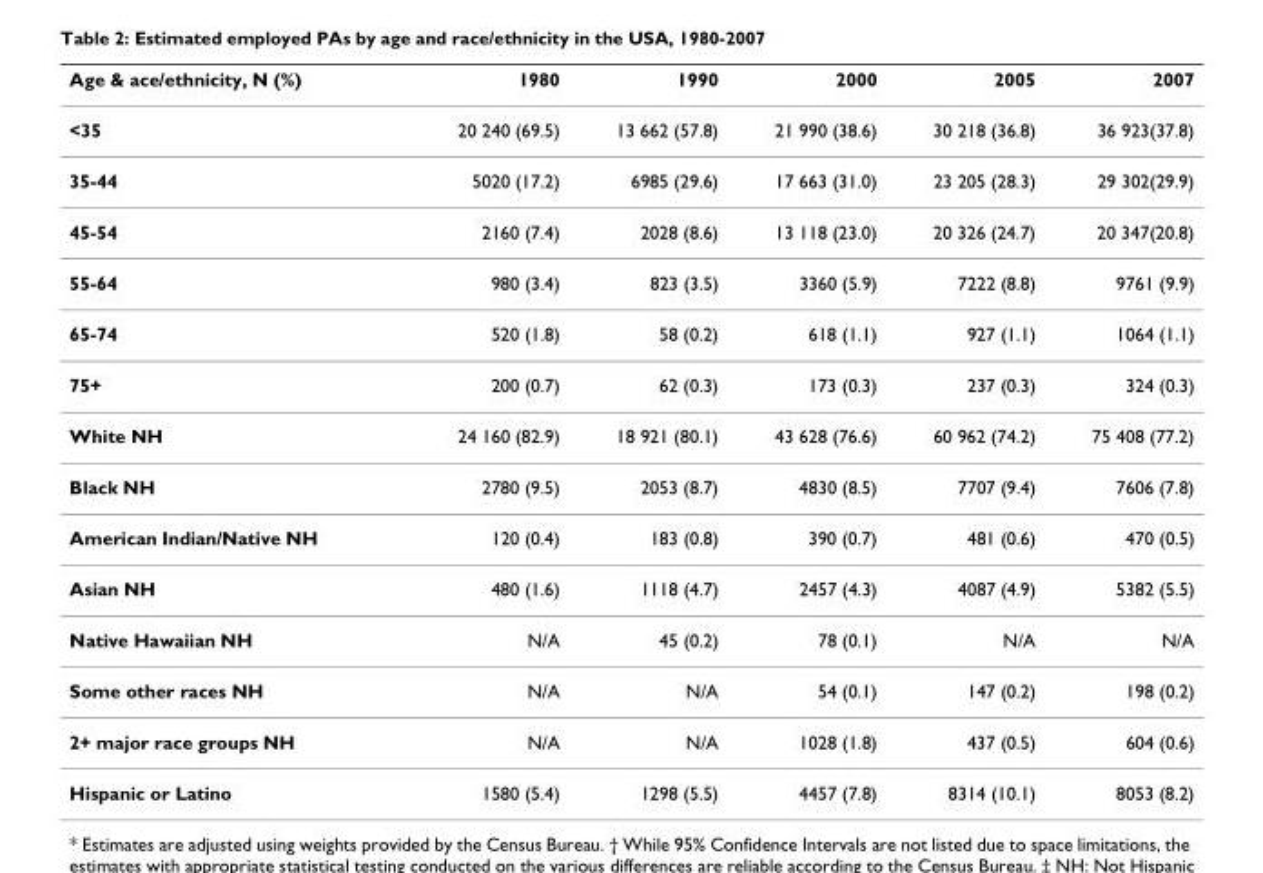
<table><thead><tr><td>Age &amp; ace/ethnicity, N (%)</td><td>1980</td><td>1990</td><td>2000</td><td>2005</td><td>2007</td></tr></thead><tbody><tr><td>&lt;35</td><td>20 240 (69.5)</td><td>13 662 (57.8)</td><td>21 990 (38.6)</td><td>30 218 (36.8)</td><td>36 923(37.8)</td></tr><tr><td>35-44</td><td>5020 (17.2)</td><td>6985 (29.6)</td><td>17 663 (31.0)</td><td>23 205 (28.3)</td><td>29 302(29.9)</td></tr><tr><td>45-54</td><td>2160 (7.4)</td><td>2028 (8.6)</td><td>13 118 (23.0)</td><td>20 326 (24.7)</td><td>20 347(20.8)</td></tr><tr><td>55-64</td><td>980 (3.4)</td><td>823 (3.5)</td><td>3360 (5.9)</td><td>7222 (8.8)</td><td>9761 (9.9)</td></tr><tr><td>65-74</td><td>520 (1.8)</td><td>58 (0.2)</td><td>618 (1.1)</td><td>927 (1.1)</td><td>1064 (1.1)</td></tr><tr><td>75+</td><td>200 (0.7)</td><td>62 (0.3)</td><td>173 (0.3)</td><td>237 (0.3)</td><td>324 (0.3)</td></tr><tr><td>White NH</td><td>24 160 (82.9)</td><td>18 921 (80.1)</td><td>43 628 (76.6)</td><td>60 962 (74.2)</td><td>75 408 (77.2)</td></tr><tr><td>Black NH</td><td>2780 (9.5)</td><td>2053 (8.7)</td><td>4830 (8.5)</td><td>7707 (9.4)</td><td>7606 (7.8)</td></tr><tr><td>American Indian/Native NH</td><td>120 (0.4)</td><td>183 (0.8)</td><td>390 (0.7)</td><td>481 (0.6)</td><td>470 (0.5)</td></tr><tr><td>Asian NH</td><td>480 (1.6)</td><td>1118 (4.7)</td><td>2457 (4.3)</td><td>4087 (4.9)</td><td>5382 (5.5)</td></tr><tr><td>Native Hawaiian NH</td><td>N/A</td><td>45 (0.2)</td><td>78 (0.1)</td><td>N/A</td><td>N/A</td></tr><tr><td>Some other races NH</td><td>N/A</td><td>N/A</td><td>54 (0.1)</td><td>147 (0.2)</td><td>198 (0.2)</td></tr><tr><td>2+ major race groups NH</td><td>N/A</td><td>N/A</td><td>1028 (1.8)</td><td>437 (0.5)</td><td>604 (0.6)</td></tr><tr><td>Hispanic or Latino</td><td>1580 (5.4)</td><td>1298 (5.5)</td><td>4457 (7.8)</td><td>8314 (10.1)</td><td>8053 (8.2)</td></tr></tbody></table>